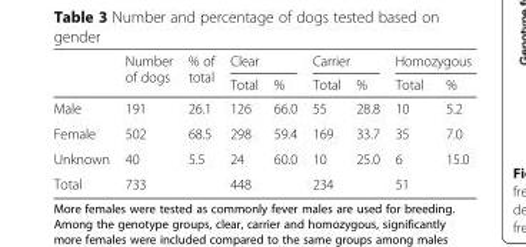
<table><thead><tr><td rowspan="2"></td><td rowspan="2">Number of dogs</td><td rowspan="2">% of total</td><td colspan="2">Clear</td><td colspan="2">Carrier</td><td colspan="2">Homozygous</td></tr><tr><td>Total</td><td>%</td><td>Total</td><td>%</td><td>Total</td><td>%</td></tr></thead><tbody><tr><td>Male</td><td>191</td><td>26.1</td><td>126</td><td>66.0</td><td>55</td><td>28.8</td><td>10</td><td>5.2</td></tr><tr><td>Female</td><td>502</td><td>68.5</td><td>298</td><td>59.4</td><td>169</td><td>33.7</td><td>35</td><td>7.0</td></tr><tr><td>Unknown</td><td>40</td><td>5.5</td><td>24</td><td>60.0</td><td>10</td><td>25.0</td><td>6</td><td>15.0</td></tr><tr><td>Total</td><td>733</td><td></td><td>448</td><td></td><td>234</td><td></td><td>51</td><td></td></tr></tbody></table>